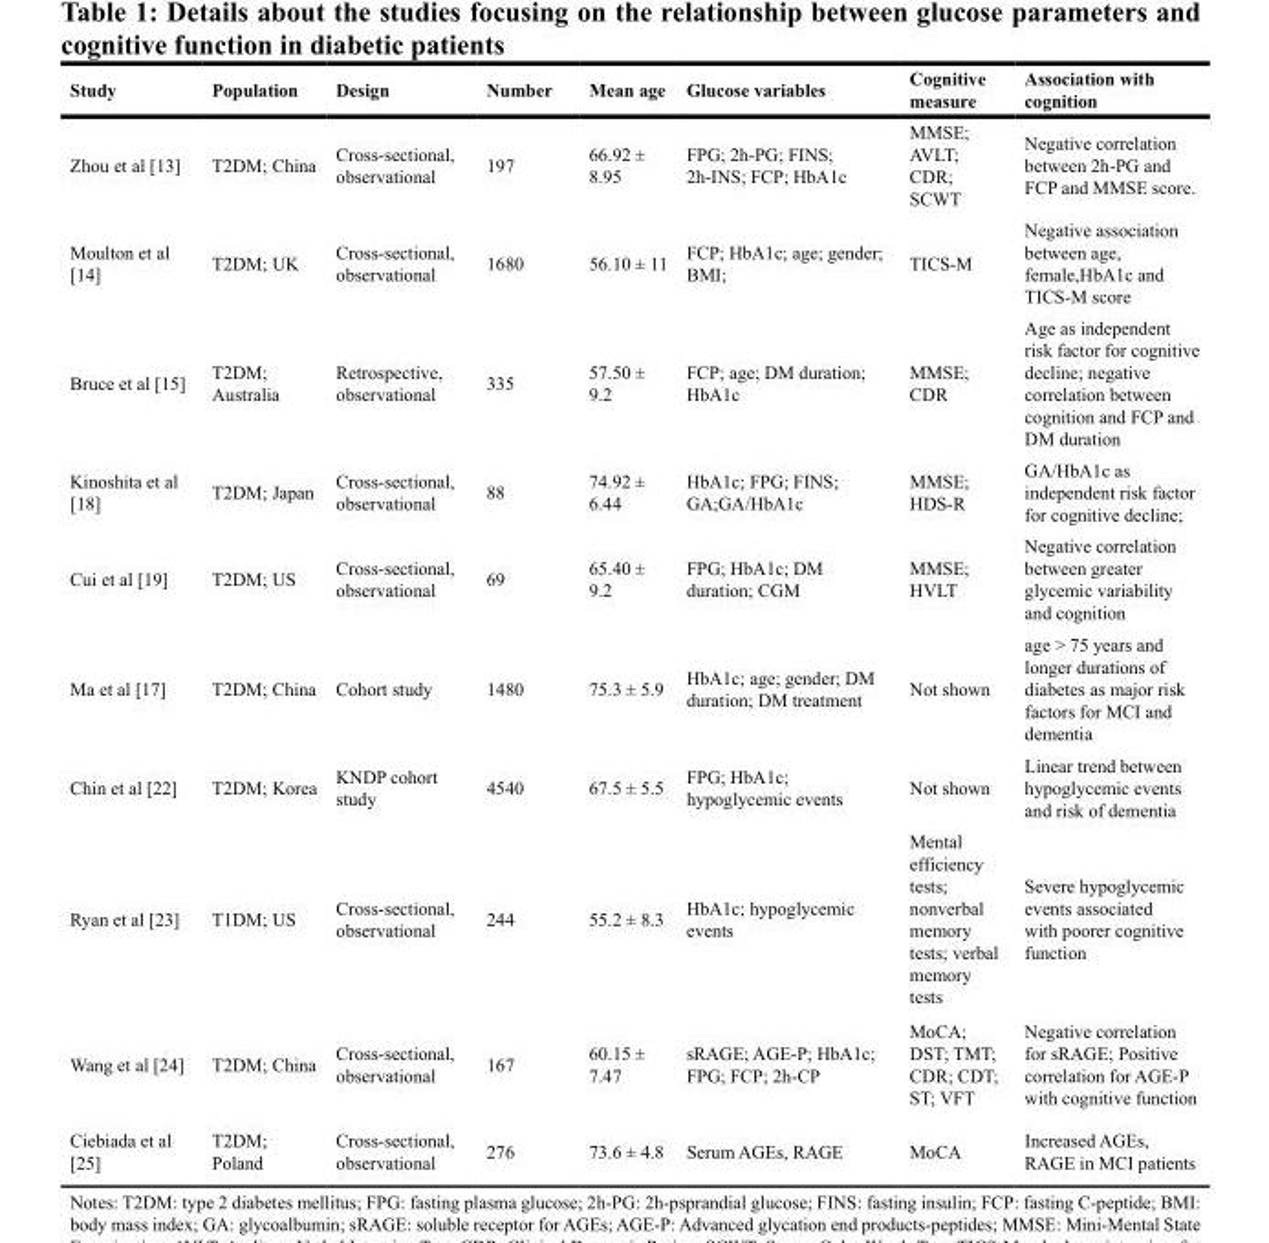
<table><thead><tr><td>Study</td><td>Population</td><td>Design</td><td>Number</td><td>Mean age</td><td>Glucose variables</td><td>Cognitive measure</td><td>Association with cognition</td></tr></thead><tbody><tr><td>Zhou et al [13]</td><td>T2DM; China</td><td>Cross-sectional, observational</td><td>197</td><td>66.92 ± 8.95</td><td>FPG; 2h-PG; FINS; 2h-INS; FCP; HbA1c</td><td>MMSE; AVLT; CDR; SCWT</td><td>Negative correlation between 2h-PG and FCP and MMSE score.</td></tr><tr><td>Moulton et al [14]</td><td>T2DM; UK</td><td>Cross-sectional, observational</td><td>1680</td><td>56.10 ± 11</td><td>FCP; HbA1c; age; gender; BMI;</td><td>TICS-M</td><td>Negative association between age, female,HbA1c and TICS-M score</td></tr><tr><td>Bruce et al [15]</td><td>T2DM; Australia</td><td>Retrospective, observational</td><td>335</td><td>57.50 ± 9.2</td><td>FCP; age; DM duration; HbA1c</td><td>MMSE; CDR</td><td>Age as independent risk factor for cognitive decline; negative correlation between cognition and FCP and DM duration</td></tr><tr><td>Kinoshita et al [18]</td><td>T2DM; Japan</td><td>Cross-sectional, observational</td><td>88</td><td>74.92 ± 6.44</td><td>HbA1c; FPG; FINS; GA;GA/HbA1c</td><td>MMSE; HDS-R</td><td>GA/HbA1c as independent risk factor for cognitive decline;</td></tr><tr><td>Cui et al [19]</td><td>T2DM; US</td><td>Cross-sectional, observational</td><td>69</td><td>65.40 ± 9.2</td><td>FPG; HbA1c; DM duration; CGM</td><td>MMSE; HVLT</td><td>Negative correlation between greater glycemic variability and cognition</td></tr><tr><td>Ma et al [17]</td><td>T2DM; China</td><td>Cohort study</td><td>1480</td><td>75.3 ± 5.9</td><td>HbA1c; age; gender; DM duration; DM treatment</td><td>Not shown</td><td>age &gt; 75 years and longer durations of diabetes as major risk factors for MCI and dementia</td></tr><tr><td>Chin et al [22]</td><td>T2DM; Korea</td><td>KNDP cohort study</td><td>4540</td><td>67.5 ± 5.5</td><td>FPG; HbA1c; hypoglycemic events</td><td>Not shown</td><td>Linear trend between hypoglycemic events and risk of dementia</td></tr><tr><td>Ryan et al [23]</td><td>T1DM; US</td><td>Cross-sectional, observational</td><td>244</td><td>55.2 ± 8.3</td><td>HbA1c; hypoglycemic events</td><td>Mental efficiency tests; nonverbal memory tests; verbal memory tests</td><td>Severe hypoglycemic events associated with poorer cognitive function</td></tr><tr><td>Wang et al [24]</td><td>T2DM; China</td><td>Cross-sectional, observational</td><td>167</td><td>60.15 ± 7.47</td><td>sRAGE; AGE-P; HbA1c; FPG; FCP; 2h-CP</td><td>MoCA; DST; TMT; CDR; CDT; ST; VFT</td><td>Negative correlation for sRAGE; Positive correlation for AGE-P with cognitive function</td></tr><tr><td>Ciebiada et al [25]</td><td>T2DM; Poland</td><td>Cross-sectional, observational</td><td>276</td><td>73.6 ± 4.8</td><td>Serum AGEs, RAGE</td><td>MoCA</td><td>Increased AGEs, RAGE in MCI patients</td></tr></tbody></table>